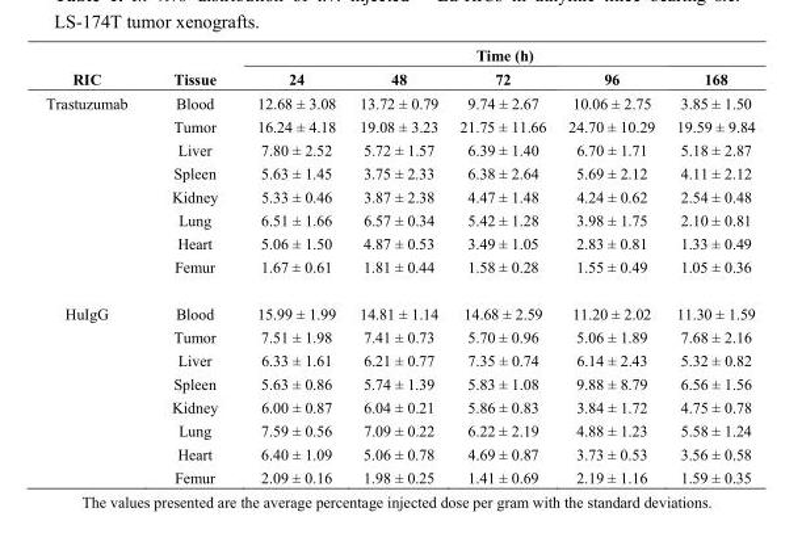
<table><thead><tr><td rowspan="2">RIC</td><td rowspan="2">Tissue</td><td colspan="5">Time (h)</td></tr><tr><td>24</td><td>48</td><td>72</td><td>96</td><td>168</td></tr></thead><tbody><tr><td rowspan="8">Trastuzumab</td><td>Blood</td><td>12.68 ± 3.08</td><td>13.72 ± 0.79</td><td>9.74 ± 2.67</td><td>10.06 ± 2.75</td><td>3.85 ± 1.50</td></tr><tr><td>Tumor</td><td>16.24 ± 4.18</td><td>19.08 ± 3.23</td><td>21.75 ± 11.66</td><td>24.70 ± 10.29</td><td>19.59 ± 9.84</td></tr><tr><td>Liver</td><td>7.80 ± 2.52</td><td>5.72 ± 1.57</td><td>6.39 ± 1.40</td><td>6.70 ± 1.71</td><td>5.18 ± 2.87</td></tr><tr><td>Spleen</td><td>5.63 ± 1.45</td><td>3.75 ± 2.33</td><td>6.38 ± 2.64</td><td>5.69 ± 2.12</td><td>4.11 ± 2.12</td></tr><tr><td>Kidney</td><td>5.33 ± 0.46</td><td>3.87 ± 2.38</td><td>4.47 ± 1.48</td><td>4.24 ± 0.62</td><td>2.54 ± 0.48</td></tr><tr><td>Lung</td><td>6.51 ± 1.66</td><td>6.57 ± 0.34</td><td>5.42 ± 1.28</td><td>3.98 ± 1.75</td><td>2.10 ± 0.81</td></tr><tr><td>Heart</td><td>5.06 ± 1.50</td><td>4.87 ± 0.53</td><td>3.49 ± 1.05</td><td>2.83 ± 0.81</td><td>1.33 ± 0.49</td></tr><tr><td>Femur</td><td>1.67 ± 0.61</td><td>1.81 ± 0.44</td><td>1.58 ± 0.28</td><td>1.55 ± 0.49</td><td>1.05 ± 0.36</td></tr><tr><td rowspan="8">HuIgG</td><td>Blood</td><td>15.99 ± 1.99</td><td>14.81 ± 1.14</td><td>14.68 ± 2.59</td><td>11.20 ± 2.02</td><td>11.30 ± 1.59</td></tr><tr><td>Tumor</td><td>7.51 ± 1.98</td><td>7.41 ± 0.73</td><td>5.70 ± 0.96</td><td>5.06 ± 1.89</td><td>7.68 ± 2.16</td></tr><tr><td>Liver</td><td>6.33 ± 1.61</td><td>6.21 ± 0.77</td><td>7.35 ± 0.74</td><td>6.14 ± 2.43</td><td>5.32 ± 0.82</td></tr><tr><td>Spleen</td><td>5.63 ± 0.86</td><td>5.74 ± 1.39</td><td>5.83 ± 1.08</td><td>9.88 ± 8.79</td><td>6.56 ± 1.56</td></tr><tr><td>Kidney</td><td>6.00 ± 0.87</td><td>6.04 ± 0.21</td><td>5.86 ± 0.83</td><td>3.84 ± 1.72</td><td>4.75 ± 0.78</td></tr><tr><td>Lung</td><td>7.59 ± 0.56</td><td>7.09 ± 0.22</td><td>6.22 ± 2.19</td><td>4.88 ± 1.23</td><td>5.58 ± 1.24</td></tr><tr><td>Heart</td><td>6.40 ± 1.09</td><td>5.06 ± 0.78</td><td>4.69 ± 0.87</td><td>3.73 ± 0.53</td><td>3.56 ± 0.58</td></tr><tr><td>Femur</td><td>2.09 ± 0.16</td><td>1.98 ± 0.25</td><td>1.41 ± 0.69</td><td>2.19 ± 1.16</td><td>1.59 ± 0.35</td></tr></tbody></table>